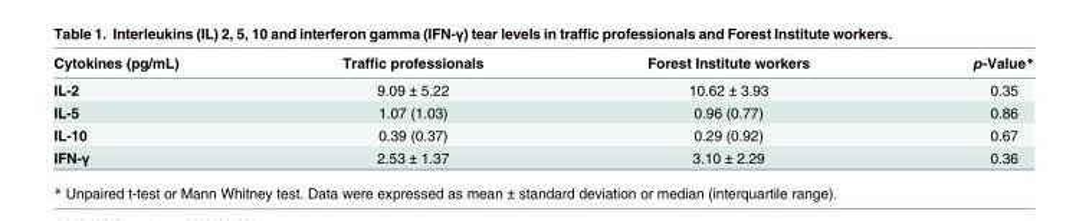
<table><thead><tr><td>Cytokines (pg/mL)</td><td>Traffic professionals</td><td>Forest Institute workers</td><td>p-Value*</td></tr></thead><tbody><tr><td>IL-2</td><td>9.09 ± 5.22</td><td>10.62 ± 3.93</td><td>0.35</td></tr><tr><td>IL-5</td><td>1.07 (1.03)</td><td>0.96 (0.77)</td><td>0.86</td></tr><tr><td>IL-10</td><td>0.39 (0.37)</td><td>0.29 (0.92)</td><td>0.67</td></tr><tr><td>IFN-γ</td><td>2.53 ± 1.37</td><td>3.10 ± 2.29</td><td>0.36</td></tr></tbody></table>